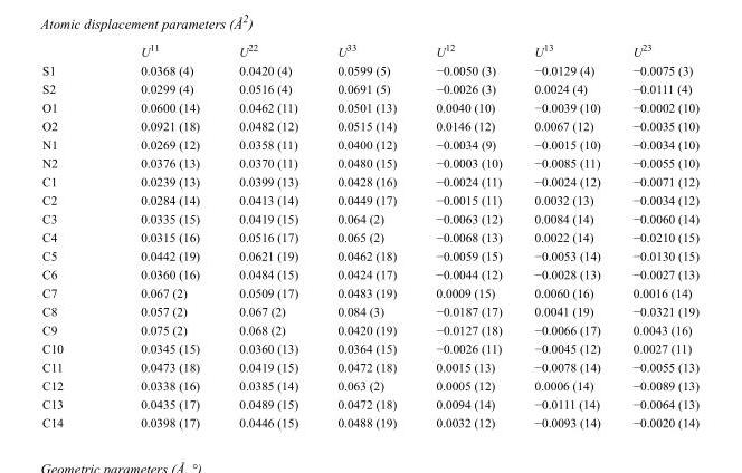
<table><thead><tr><td></td><td>U<sup>11</sup></td><td>U<sup>22</sup></td><td>U<sup>33</sup></td><td>U<sup>12</sup></td><td>U<sup>13</sup></td><td>U<sup>23</sup></td></tr></thead><tbody><tr><td>S1</td><td>0.0368 (4)</td><td>0.0420 (4)</td><td>0.0599 (5)</td><td>−0.0050 (3)</td><td>−0.0129 (4)</td><td>−0.0075 (3)</td></tr><tr><td>S2</td><td>0.0299 (4)</td><td>0.0516 (4)</td><td>0.0691 (5)</td><td>−0.0026 (3)</td><td>0.0024 (4)</td><td>−0.0111 (4)</td></tr><tr><td>O1</td><td>0.0600 (14)</td><td>0.0462 (11)</td><td>0.0501 (13)</td><td>0.0040 (10)</td><td>−0.0039 (10)</td><td>−0.0002 (10)</td></tr><tr><td>O2</td><td>0.0921 (18)</td><td>0.0482 (12)</td><td>0.0515 (14)</td><td>0.0146 (12)</td><td>0.0067 (12)</td><td>−0.0035 (10)</td></tr><tr><td>N1</td><td>0.0269 (12)</td><td>0.0358 (11)</td><td>0.0400 (12)</td><td>−0.0034 (9)</td><td>−0.0015 (10)</td><td>−0.0034 (10)</td></tr><tr><td>N2</td><td>0.0376 (13)</td><td>0.0370 (11)</td><td>0.0480 (15)</td><td>−0.0003 (10)</td><td>−0.0085 (11)</td><td>−0.0055 (10)</td></tr><tr><td>C1</td><td>0.0239 (13)</td><td>0.0399 (13)</td><td>0.0428 (16)</td><td>−0.0024 (11)</td><td>−0.0024 (12)</td><td>−0.0071 (12)</td></tr><tr><td>C2</td><td>0.0284 (14)</td><td>0.0413 (14)</td><td>0.0449 (17)</td><td>−0.0015 (11)</td><td>0.0032 (13)</td><td>−0.0034 (12)</td></tr><tr><td>C3</td><td>0.0335 (15)</td><td>0.0419 (15)</td><td>0.064 (2)</td><td>−0.0063 (12)</td><td>0.0084 (14)</td><td>−0.0060 (14)</td></tr><tr><td>C4</td><td>0.0315 (16)</td><td>0.0516 (17)</td><td>0.065 (2)</td><td>−0.0068 (13)</td><td>0.0022 (14)</td><td>−0.0210 (15)</td></tr><tr><td>C5</td><td>0.0442 (19)</td><td>0.0621 (19)</td><td>0.0462 (18)</td><td>−0.0059 (15)</td><td>−0.0053 (14)</td><td>−0.0130 (15)</td></tr><tr><td>C6</td><td>0.0360 (16)</td><td>0.0484 (15)</td><td>0.0424 (17)</td><td>−0.0044 (12)</td><td>−0.0028 (13)</td><td>−0.0027 (13)</td></tr><tr><td>C7</td><td>0.067 (2)</td><td>0.0509 (17)</td><td>0.0483 (19)</td><td>0.0009 (15)</td><td>0.0060 (16)</td><td>0.0016 (14)</td></tr><tr><td>C8</td><td>0.057 (2)</td><td>0.067 (2)</td><td>0.084 (3)</td><td>−0.0187 (17)</td><td>0.0041 (19)</td><td>−0.0321 (19)</td></tr><tr><td>C9</td><td>0.075 (2)</td><td>0.068 (2)</td><td>0.0420 (19)</td><td>−0.0127 (18)</td><td>−0.0066 (17)</td><td>0.0043 (16)</td></tr><tr><td>C10</td><td>0.0345 (15)</td><td>0.0360 (13)</td><td>0.0364 (15)</td><td>−0.0026 (11)</td><td>−0.0045 (12)</td><td>0.0027 (11)</td></tr><tr><td>C11</td><td>0.0473 (18)</td><td>0.0419 (15)</td><td>0.0472 (18)</td><td>0.0015 (13)</td><td>−0.0078 (14)</td><td>−0.0055 (13)</td></tr><tr><td>C12</td><td>0.0338 (16)</td><td>0.0385 (14)</td><td>0.063 (2)</td><td>0.0005 (12)</td><td>0.0006 (14)</td><td>−0.0089 (13)</td></tr><tr><td>C13</td><td>0.0435 (17)</td><td>0.0489 (15)</td><td>0.0472 (18)</td><td>0.0094 (14)</td><td>−0.0111 (14)</td><td>−0.0064 (13)</td></tr><tr><td>C14</td><td>0.0398 (17)</td><td>0.0446 (15)</td><td>0.0488 (19)</td><td>0.0032 (12)</td><td>−0.0093 (14)</td><td>−0.0020 (14)</td></tr></tbody></table>